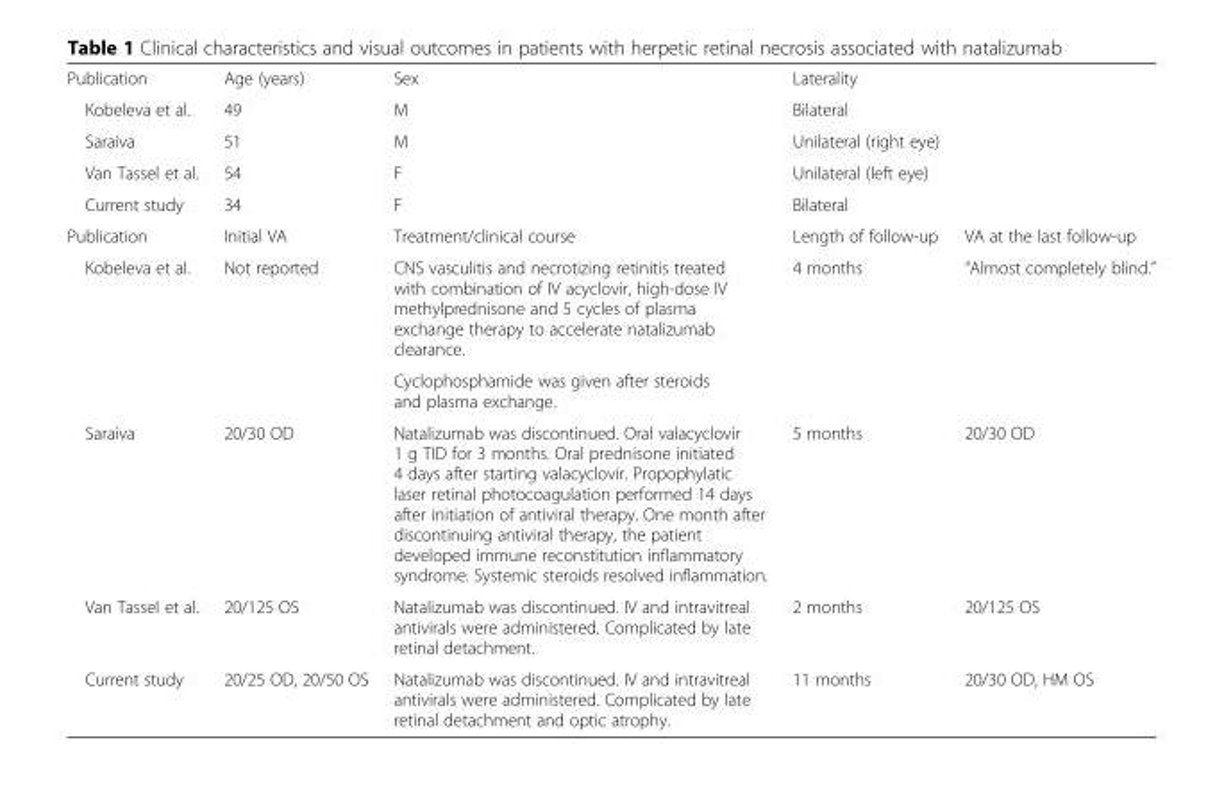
<table><tbody><tr><td>Publication</td><td>Age (years)</td><td>Sex</td><td>Laterality</td><td></td></tr><tr><td>Kobeleva et al.</td><td>49</td><td>M</td><td>Bilateral</td><td></td></tr><tr><td>Saraiva</td><td>51</td><td>M</td><td>Unilateral (right eye)</td><td></td></tr><tr><td>Van Tassel et al.</td><td>54</td><td>F</td><td>Unilateral (left eye)</td><td></td></tr><tr><td>Current study</td><td>34</td><td>F</td><td>Bilateral</td><td></td></tr><tr><td>Publication</td><td>Initial VA</td><td>Treatment/clinical course</td><td>Length of follow-up</td><td>VA at the last follow-up</td></tr><tr><td rowspan="2">Kobeleva et al.</td><td rowspan="2">Not reported</td><td>CNS vasculitis and necrotizing retinitis treated with combination of IV acyclovir, high-dose IV methylprednisone and 5 cycles of plasma exchange therapy to accelerate natalizumab clearance.</td><td rowspan="2">4 months</td><td rowspan="2">“Almost completely blind.”</td></tr><tr><td>Cyclophosphamide was given after steroids and plasma exchange.</td></tr><tr><td>Saraiva</td><td>20/30 OD</td><td>Natalizumab was discontinued. Oral valacyclovir 1 g TID for 3 months. Oral prednisone initiated 4 days after starting valacyclovir. Propophylatic laser retinal photocoagulation performed 14 days after initiation of antiviral therapy. One month after discontinuing antiviral therapy, the patient developed immune reconstitution inflammatory syndrome. Systemic steroids resolved inflammation.</td><td>5 months</td><td>20/30 OD</td></tr><tr><td>Van Tassel et al.</td><td>20/125 OS</td><td>Natalizumab was discontinued. IV and intravitreal antivirals were administered. Complicated by late retinal detachment.</td><td>2 months</td><td>20/125 OS</td></tr><tr><td>Current study</td><td>20/25 OD, 20/50 OS</td><td>Natalizumab was discontinued. IV and intravitreal antivirals were administered. Complicated by late retinal detachment and optic atrophy.</td><td>11 months</td><td>20/30 OD, HM OS</td></tr></tbody></table>